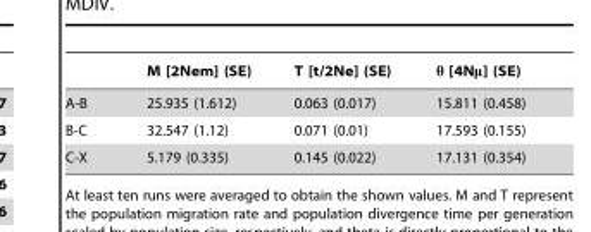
<table><thead><tr><td></td><td>M [2Nem] (SE)</td><td>T [t/2Ne] (SE)</td><td>θ [4Nμ] (SE)</td></tr></thead><tbody><tr><td>A-B</td><td>25.935 (1.612)</td><td>0.063 (0.017)</td><td>15.811 (0.458)</td></tr><tr><td>B-C</td><td>32.547 (1.12)</td><td>0.071 (0.01)</td><td>17.593 (0.155)</td></tr><tr><td>C-X</td><td>5.179 (0.335)</td><td>0.145 (0.022)</td><td>17.131 (0.354)</td></tr></tbody></table>